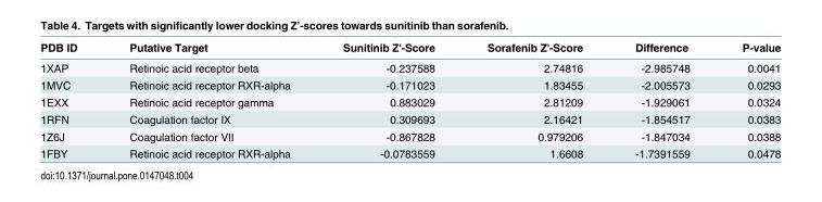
<table><thead><tr><td>PDB ID</td><td>Putative Target</td><td>Sunitinib Z&#x27;-Score</td><td>Sorafenib Z&#x27;-Score</td><td>Difference</td><td>P-value</td></tr></thead><tbody><tr><td>1XAP</td><td>Retinoic acid receptor beta</td><td>-0.237588</td><td>2.74816</td><td>-2.985748</td><td>0.0041</td></tr><tr><td>1MVC</td><td>Retinoic acid receptor RXR-alpha</td><td>-0.171023</td><td>1.83455</td><td>-2.005573</td><td>0.0293</td></tr><tr><td>1EXX</td><td>Retinoic acid receptor gamma</td><td>0.883029</td><td>2.81209</td><td>-1.929061</td><td>0.0324</td></tr><tr><td>1RFN</td><td>Coagulation factor IX</td><td>0.309693</td><td>2.16421</td><td>-1.854517</td><td>0.0383</td></tr><tr><td>1Z6J</td><td>Coagulation factor VII</td><td>-0.867828</td><td>0.979206</td><td>-1.847034</td><td>0.0388</td></tr><tr><td>1FBY</td><td>Retinoic acid receptor RXR-alpha</td><td>-0.0783559</td><td>1.6608</td><td>-1.7391559</td><td>0.0478</td></tr></tbody></table>